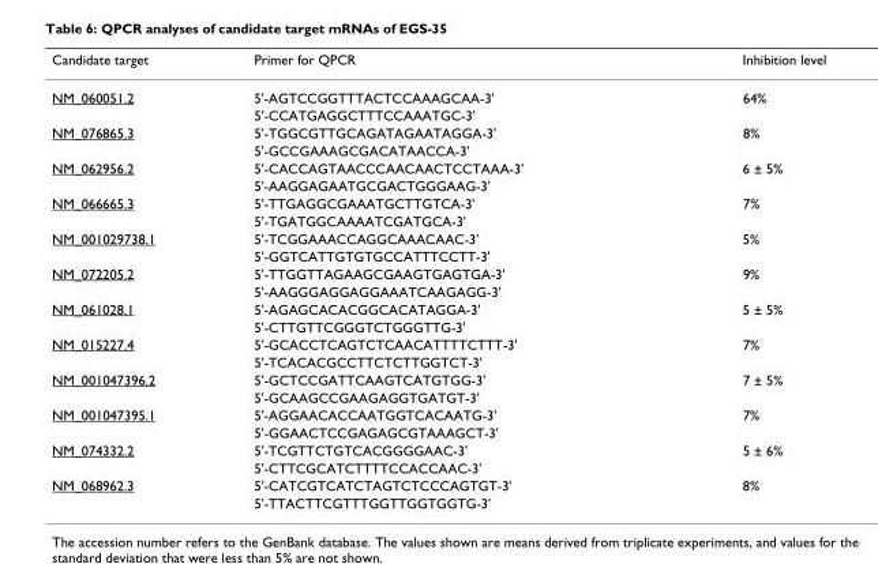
<table><thead><tr><td>Candidate target</td><td>Primer for QPCR</td><td>Inhibition level</td></tr></thead><tbody><tr><td rowspan="2">NM_060051.2</td><td>5&#x27;-AGTCCGGTTTACTCCAAAGCAA-3&#x27;</td><td>64%</td></tr><tr><td>5&#x27;-CCATGAGGCTTTCCAAATGC-3&#x27;</td><td></td></tr><tr><td rowspan="2">NM_076865.3</td><td>5&#x27;-TGGCGTTGCAGATAGAATAGGA-3&#x27;</td><td>8%</td></tr><tr><td>5&#x27;-GCCGAAAGCGACATAACCA-3&#x27;</td><td></td></tr><tr><td rowspan="2">NM_062956.2</td><td>5&#x27;-CACCAGTAACCCAACAACTCCTAAA-3&#x27;</td><td>6 ± 5%</td></tr><tr><td>5&#x27;-AAGGAGAATGCGACTGGGAAG-3&#x27;</td><td></td></tr><tr><td rowspan="2">NM_066665.3</td><td>5&#x27;-TTGAGGCGAAATGCTTGTCA-3&#x27;</td><td>7%</td></tr><tr><td>5&#x27;-TGATGGCAAAATCGATGCA-3&#x27;</td><td></td></tr><tr><td rowspan="2">NM_001029738.1</td><td>5&#x27;-TCGGAAACCAGGCAAACAAC-3&#x27;</td><td>5%</td></tr><tr><td>5&#x27;-GGTCATTGTGTGCCATTTCCTT-3&#x27;</td><td></td></tr><tr><td rowspan="2">NM_072205.2</td><td>5&#x27;-TTGGTTAGAAGCGAAGTGAGTGA-3&#x27;</td><td>9%</td></tr><tr><td>5&#x27;-AAGGGAGGAGGAAATCAAGAGG-3&#x27;</td><td></td></tr><tr><td rowspan="2">NM_061028.1</td><td>5&#x27;-AGAGCACACGGCACATAGGA-3&#x27;</td><td>5 ± 5%</td></tr><tr><td>5&#x27;-CTTGTTCGGGTCTGGGTTG-3&#x27;</td><td></td></tr><tr><td rowspan="2">NM_015227.4</td><td>5&#x27;-GCACCTCAGTCTCAACATTTTCTTT-3&#x27;</td><td>7%</td></tr><tr><td>5&#x27;-TCACACGCCTTCTCTTGGTCT-3&#x27;</td><td></td></tr><tr><td rowspan="2">NM_001047396.2</td><td>5&#x27;-GCTCCGATTCAAGTCATGTGG-3&#x27;</td><td>7 ± 5%</td></tr><tr><td>5&#x27;-GCAAGCCGAAGAGGTGATGT-3&#x27;</td><td></td></tr><tr><td rowspan="2">NM_001047395.1</td><td>5&#x27;-AGGAACACCAATGGTCACAATG-3&#x27;</td><td>7%</td></tr><tr><td>5&#x27;-GGAACTCCGAGAGCGTAAAGCT-3&#x27;</td><td></td></tr><tr><td rowspan="2">NM_074332.2</td><td>5&#x27;-TCGTTCTGTCACGGGGAAC-3&#x27;</td><td>5 ± 6%</td></tr><tr><td>5&#x27;-CTTCGCATCTTTTCCACCAAC-3&#x27;</td><td></td></tr><tr><td rowspan="2">NM_068962.3</td><td>5&#x27;-CATCGTCATCTAGTCTCCCAGTGT-3&#x27;</td><td>8%</td></tr><tr><td>5&#x27;-TTACTTCGTTTGGTTGGTGGTG-3&#x27;</td><td></td></tr></tbody></table>